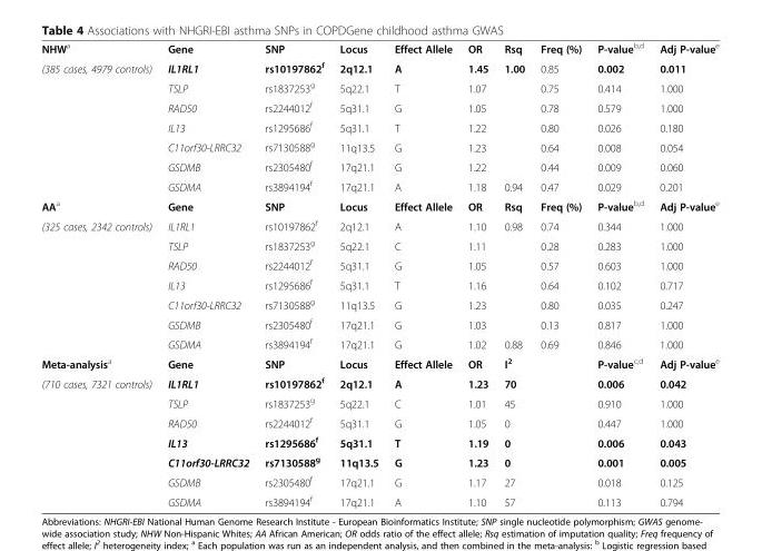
<table><tbody><tr><td>NHW<sup>a</sup></td><td>Gene</td><td>SNP</td><td>Locus</td><td>Effect Allele</td><td>OR</td><td>Rsq</td><td>Freq (%)</td><td>P-value<sup>b,d</sup></td><td>Adj P-value<sup>e</sup></td></tr><tr><td rowspan="7">(385 cases, 4979 controls)</td><td>IL1RL1</td><td>rs10197862<sup>f</sup></td><td>2q12.1</td><td>A</td><td>1.45</td><td>1.00</td><td>0.85</td><td>0.002</td><td>0.011</td></tr><tr><td>TSLP</td><td>rs1837253<sup>g</sup></td><td>5q22.1</td><td>T</td><td>1.07</td><td></td><td>0.75</td><td>0.414</td><td>1.000</td></tr><tr><td>RAD50</td><td>rs2244012<sup>f</sup></td><td>5q31.1</td><td>G</td><td>1.05</td><td></td><td>0.78</td><td>0.579</td><td>1.000</td></tr><tr><td>IL13</td><td>rs1295686<sup>f</sup></td><td>5q31.1</td><td>T</td><td>1.22</td><td></td><td>0.80</td><td>0.026</td><td>0.180</td></tr><tr><td>C11orf30-LRRC32</td><td>rs7130588<sup>g</sup></td><td>11q13.5</td><td>G</td><td>1.23</td><td></td><td>0.64</td><td>0.008</td><td>0.054</td></tr><tr><td>GSDMB</td><td>rs2305480<sup>f</sup></td><td>17q21.1</td><td>G</td><td>1.22</td><td></td><td>0.44</td><td>0.009</td><td>0.060</td></tr><tr><td>GSDMA</td><td>rs3894194<sup>f</sup></td><td>17q21.1</td><td>A</td><td>1.18</td><td>0.94</td><td>0.47</td><td>0.029</td><td>0.201</td></tr><tr><td>AA<sup>a</sup></td><td>Gene</td><td>SNP</td><td>Locus</td><td>Effect Allele</td><td>OR</td><td>Rsq</td><td>Freq (%)</td><td>P-value<sup>b,d</sup></td><td>Adj P-value<sup>e</sup></td></tr><tr><td rowspan="7">(325 cases, 2342 controls)</td><td>IL1RL1</td><td>rs10197862<sup>f</sup></td><td>2q12.1</td><td>A</td><td>1.10</td><td>0.98</td><td>0.74</td><td>0.344</td><td>1.000</td></tr><tr><td>TSLP</td><td>rs1837253<sup>g</sup></td><td>5q22.1</td><td>C</td><td>1.11</td><td></td><td>0.28</td><td>0.283</td><td>1.000</td></tr><tr><td>RAD50</td><td>rs2244012<sup>f</sup></td><td>5q31.1</td><td>G</td><td>1.05</td><td></td><td>0.57</td><td>0.603</td><td>1.000</td></tr><tr><td>IL13</td><td>rs1295686<sup>f</sup></td><td>5q31.1</td><td>T</td><td>1.16</td><td></td><td>0.64</td><td>0.102</td><td>0.717</td></tr><tr><td>C11orf30-LRRC32</td><td>rs7130588<sup>g</sup></td><td>11q13.5</td><td>G</td><td>1.23</td><td></td><td>0.80</td><td>0.035</td><td>0.247</td></tr><tr><td>GSDMB</td><td>rs2305480<sup>f</sup></td><td>17q21.1</td><td>G</td><td>1.03</td><td></td><td>0.13</td><td>0.817</td><td>1.000</td></tr><tr><td>GSDMA</td><td>rs3894194<sup>f</sup></td><td>17q21.1</td><td>G</td><td>1.02</td><td>0.88</td><td>0.69</td><td>0.846</td><td>1.000</td></tr><tr><td>Meta-analysis<sup>a</sup></td><td>Gene</td><td>SNP</td><td>Locus</td><td>Effect Allele</td><td>OR</td><td>I<sup>2</sup></td><td></td><td>P-value<sup>c,d</sup></td><td>Adj P-value<sup>e</sup></td></tr><tr><td rowspan="7">(710 cases, 7321 controls)</td><td>IL1RL1</td><td>rs10197862<sup>f</sup></td><td>2q12.1</td><td>A</td><td>1.23</td><td>70</td><td></td><td>0.006</td><td>0.042</td></tr><tr><td>TSLP</td><td>rs1837253<sup>g</sup></td><td>5q22.1</td><td>C</td><td>1.01</td><td>45</td><td></td><td>0.910</td><td>1.000</td></tr><tr><td>RAD50</td><td>rs2244012<sup>f</sup></td><td>5q31.1</td><td>G</td><td>1.05</td><td>0</td><td></td><td>0.447</td><td>1.000</td></tr><tr><td>IL13</td><td>rs1295686<sup>f</sup></td><td>5q31.1</td><td>T</td><td>1.19</td><td>0</td><td></td><td>0.006</td><td>0.043</td></tr><tr><td>C11orf30-LRRC32</td><td>rs7130588<sup>g</sup></td><td>11q13.5</td><td>G</td><td>1.23</td><td>0</td><td></td><td>0.001</td><td>0.005</td></tr><tr><td>GSDMB</td><td>rs2305480<sup>f</sup></td><td>17q21.1</td><td>G</td><td>1.17</td><td>27</td><td></td><td>0.018</td><td>0.125</td></tr><tr><td>GSDMA</td><td>rs3894194<sup>f</sup></td><td>17q21.1</td><td>A</td><td>1.10</td><td>57</td><td></td><td>0.113</td><td>0.794</td></tr></tbody></table>